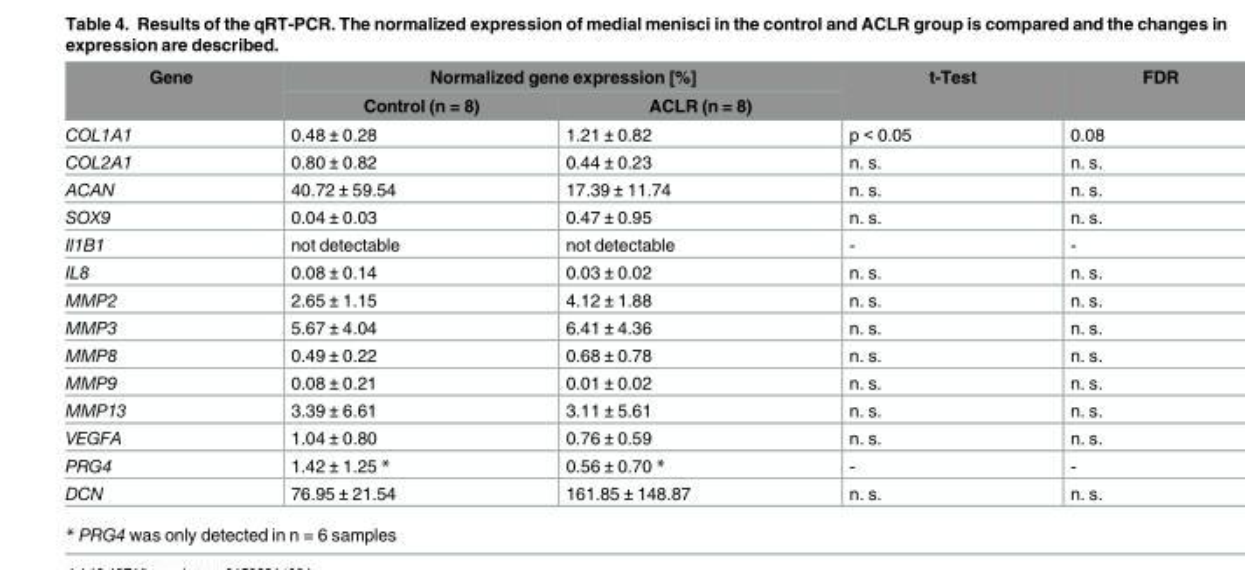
<table><thead><tr><td rowspan="2">Gene</td><td colspan="2">Normalized gene expression [%]</td><td rowspan="2">t-Test</td><td rowspan="2">FDR</td></tr><tr><td>Control (n = 8)</td><td>ACLR (n = 8)</td></tr></thead><tbody><tr><td>COL1A1</td><td>0.48 ± 0.28</td><td>1.21 ± 0.82</td><td>p &lt; 0.05</td><td>0.08</td></tr><tr><td>COL2A1</td><td>0.80 ± 0.82</td><td>0.44 ± 0.23</td><td>n. s.</td><td>n. s.</td></tr><tr><td>ACAN</td><td>40.72 ± 59.54</td><td>17.39 ± 11.74</td><td>n. s.</td><td>n. s.</td></tr><tr><td>SOX9</td><td>0.04 ± 0.03</td><td>0.47 ± 0.95</td><td>n. s.</td><td>n. s.</td></tr><tr><td>Il1B1</td><td>not detectable</td><td>not detectable</td><td>-</td><td>-</td></tr><tr><td>IL8</td><td>0.08 ± 0.14</td><td>0.03 ± 0.02</td><td>n. s.</td><td>n. s.</td></tr><tr><td>MMP2</td><td>2.65 ± 1.15</td><td>4.12 ± 1.88</td><td>n. s.</td><td>n. s.</td></tr><tr><td>MMP3</td><td>5.67 ± 4.04</td><td>6.41 ± 4.36</td><td>n. s.</td><td>n. s.</td></tr><tr><td>MMP8</td><td>0.49 ± 0.22</td><td>0.68 ± 0.78</td><td>n. s.</td><td>n. s.</td></tr><tr><td>MMP9</td><td>0.08 ± 0.21</td><td>0.01 ± 0.02</td><td>n. s.</td><td>n. s.</td></tr><tr><td>MMP13</td><td>3.39 ± 6.61</td><td>3.11 ± 5.61</td><td>n. s.</td><td>n. s.</td></tr><tr><td>VEGFA</td><td>1.04 ± 0.80</td><td>0.76 ± 0.59</td><td>n. s.</td><td>n. s.</td></tr><tr><td>PRG4</td><td>1.42 ± 1.25 *</td><td>0.56 ± 0.70 *</td><td>-</td><td>-</td></tr><tr><td>DCN</td><td>76.95 ± 21.54</td><td>161.85 ± 148.87</td><td>n. s.</td><td>n. s.</td></tr></tbody></table>